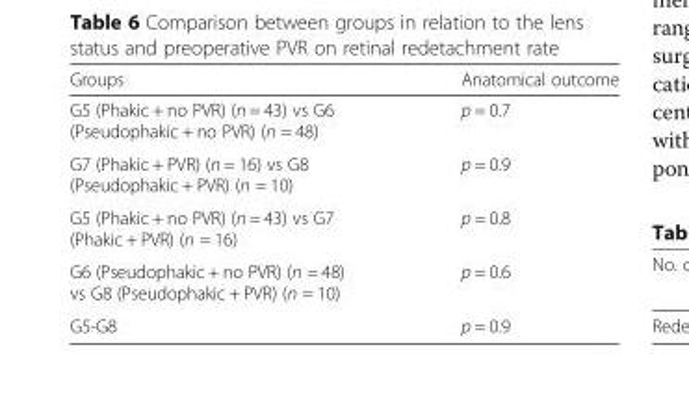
<table><thead><tr><td>Groups</td><td>Anatomical outcome</td></tr></thead><tbody><tr><td>G5 (Phakic + no PVR) (n = 43) vs G6 (Pseudophakic + no PVR) (n = 48)</td><td>p = 0.7</td></tr><tr><td>G7 (Phakic + PVR) (n = 16) vs G8 (Pseudophakic + PVR) (n = 10)</td><td>p = 0.9</td></tr><tr><td>G5 (Phakic + no PVR) (n = 43) vs G7 (Phakic + PVR) (n = 16)</td><td>p = 0.8</td></tr><tr><td>G6 (Pseudophakic + no PVR) (n = 48) vs G8 (Pseudophakic + PVR) (n = 10)</td><td>p = 0.6</td></tr><tr><td>G5-G8</td><td>p = 0.9</td></tr></tbody></table>